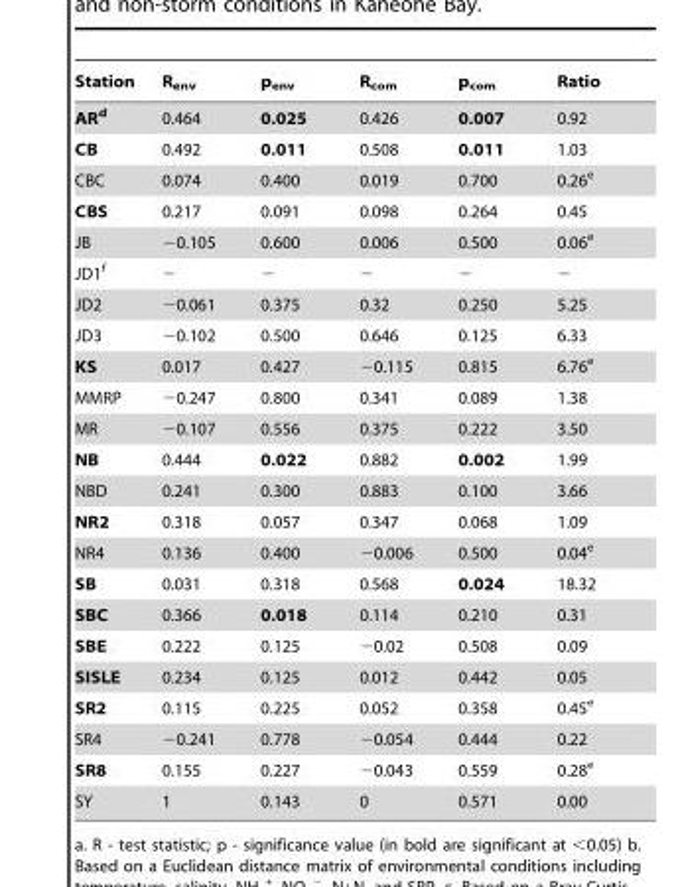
<table><thead><tr><td>Station</td><td>R<sub>env</sub></td><td>p<sub>env</sub></td><td>R<sub>com</sub></td><td>p<sub>com</sub></td><td>Ratio</td></tr></thead><tbody><tr><td>AR<sup>d</sup></td><td>0.464</td><td>0.025</td><td>0.426</td><td>0.007</td><td>0.92</td></tr><tr><td>CB</td><td>0.492</td><td>0.011</td><td>0.508</td><td>0.011</td><td>1.03</td></tr><tr><td>CBC</td><td>0.074</td><td>0.400</td><td>0.019</td><td>0.700</td><td>0.26<sup>e</sup></td></tr><tr><td>CBS</td><td>0.217</td><td>0.091</td><td>0.098</td><td>0.264</td><td>0.45</td></tr><tr><td>JB</td><td>−0.105</td><td>0.600</td><td>0.006</td><td>0.500</td><td>0.06<sup>e</sup></td></tr><tr><td>JD1<sup>f</sup></td><td>−</td><td>−</td><td>−</td><td>−</td><td>−</td></tr><tr><td>JD2</td><td>−0.061</td><td>0.375</td><td>0.32</td><td>0.250</td><td>5.25</td></tr><tr><td>JD3</td><td>−0.102</td><td>0.500</td><td>0.646</td><td>0.125</td><td>6.33</td></tr><tr><td>KS</td><td>0.017</td><td>0.427</td><td>−0.115</td><td>0.815</td><td>6.76<sup>e</sup></td></tr><tr><td>MMRP</td><td>−0.247</td><td>0.800</td><td>0.341</td><td>0.089</td><td>1.38</td></tr><tr><td>MR</td><td>−0.107</td><td>0.556</td><td>0.375</td><td>0.222</td><td>3.50</td></tr><tr><td>NB</td><td>0.444</td><td>0.022</td><td>0.882</td><td>0.002</td><td>1.99</td></tr><tr><td>NBD</td><td>0.241</td><td>0.300</td><td>0.883</td><td>0.100</td><td>3.66</td></tr><tr><td>NR2</td><td>0.318</td><td>0.057</td><td>0.347</td><td>0.068</td><td>1.09</td></tr><tr><td>NR4</td><td>0.136</td><td>0.400</td><td>−0.006</td><td>0.500</td><td>0.04<sup>e</sup></td></tr><tr><td>SB</td><td>0.031</td><td>0.318</td><td>0.568</td><td>0.024</td><td>18.32</td></tr><tr><td>SBC</td><td>0.366</td><td>0.018</td><td>0.114</td><td>0.210</td><td>0.31</td></tr><tr><td>SBE</td><td>0.222</td><td>0.125</td><td>−0.02</td><td>0.508</td><td>0.09</td></tr><tr><td>SISLE</td><td>0.234</td><td>0.125</td><td>0.012</td><td>0.442</td><td>0.05</td></tr><tr><td>SR2</td><td>0.115</td><td>0.225</td><td>0.052</td><td>0.358</td><td>0.45<sup>e</sup></td></tr><tr><td>SR4</td><td>−0.241</td><td>0.778</td><td>−0.054</td><td>0.444</td><td>0.22</td></tr><tr><td>SR8</td><td>0.155</td><td>0.227</td><td>−0.043</td><td>0.559</td><td>0.28<sup>e</sup></td></tr><tr><td>SY</td><td>1</td><td>0.143</td><td>0</td><td>0.571</td><td>0.00</td></tr></tbody></table>